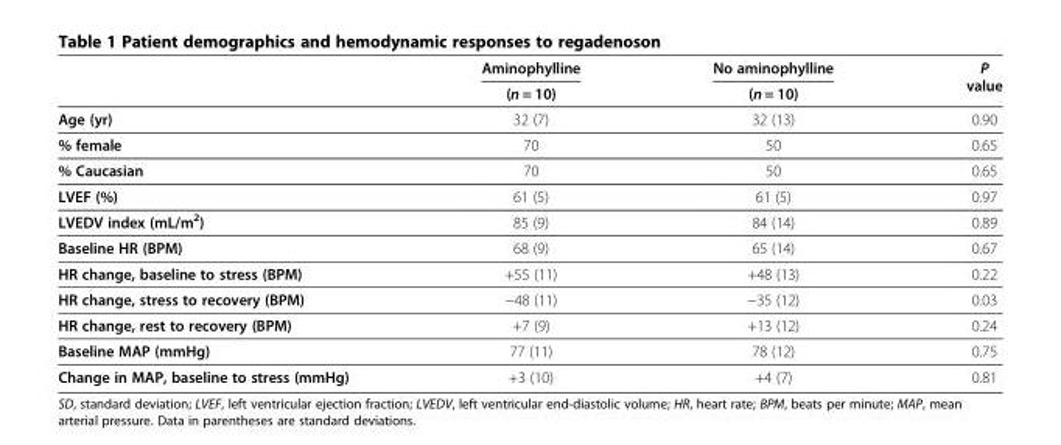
<table><thead><tr><td rowspan="2"></td><td rowspan="2">Aminophylline (n = 10)</td><td rowspan="2">No aminophylline (n = 10)</td><td rowspan="2">P value</td></tr><tr></tr></thead><tbody><tr><td>Age (yr)</td><td>32 (7)</td><td>32 (13)</td><td>0.90</td></tr><tr><td>% female</td><td>70</td><td>50</td><td>0.65</td></tr><tr><td>% Caucasian</td><td>70</td><td>50</td><td>0.65</td></tr><tr><td>LVEF (%)</td><td>61 (5)</td><td>61 (5)</td><td>0.97</td></tr><tr><td>LVEDV index (mL/m<sup>2</sup>)</td><td>85 (9)</td><td>84 (14)</td><td>0.89</td></tr><tr><td>Baseline HR (BPM)</td><td>68 (9)</td><td>65 (14)</td><td>0.67</td></tr><tr><td>HR change, baseline to stress (BPM)</td><td>+55 (11)</td><td>+48 (13)</td><td>0.22</td></tr><tr><td>HR change, stress to recovery (BPM)</td><td>−48 (11)</td><td>−35 (12)</td><td>0.03</td></tr><tr><td>HR change, rest to recovery (BPM)</td><td>+7 (9)</td><td>+13 (12)</td><td>0.24</td></tr><tr><td>Baseline MAP (mmHg)</td><td>77 (11)</td><td>78 (12)</td><td>0.75</td></tr><tr><td>Change in MAP, baseline to stress (mmHg)</td><td>+3 (10)</td><td>+4 (7)</td><td>0.81</td></tr></tbody></table>